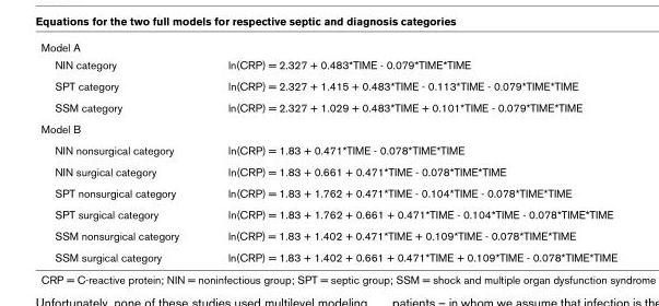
<table><tbody><tr><td colspan="2">Model A</td></tr><tr><td>NIN category</td><td>ln(CRP) = 2.327 + 0.483*TIME - 0.079*TIME*TIME</td></tr><tr><td>SPT category</td><td>ln(CRP) = 2.327 + 1.415 + 0.483*TIME - 0.113*TIME - 0.079*TIME*TIME</td></tr><tr><td>SSM category</td><td>ln(CRP) = 2.327 + 1.029 + 0.483*TIME + 0.101*TIME - 0.079*TIME*TIME</td></tr><tr><td colspan="2">Model B</td></tr><tr><td>NIN nonsurgical category</td><td>ln(CRP) = 1.83 + 0.471*TIME - 0.078*TIME*TIME</td></tr><tr><td>NIN surgical category</td><td>ln(CRP) = 1.83 + 0.661 + 0.471*TIME - 0.078*TIME*TIME</td></tr><tr><td>SPT nonsurgical category</td><td>ln(CRP) = 1.83 + 1.762 + 0.471*TIME - 0.104*TIME - 0.078*TIME*TIME</td></tr><tr><td>SPT surgical category</td><td>ln(CRP) = 1.83 + 1.762 + 0.661 + 0.471*TIME - 0.104*TIME - 0.078*TIME*TIME</td></tr><tr><td>SSM nonsurgical category</td><td>ln(CRP) = 1.83 + 1.402 + 0.471*TIME + 0.109*TIME - 0.078*TIME*TIME</td></tr><tr><td>SSM surgical category</td><td>ln(CRP) = 1.83 + 1.402 + 0.661 + 0.471*TIME + 0.109*TIME - 0.078*TIME*TIME</td></tr></tbody></table>